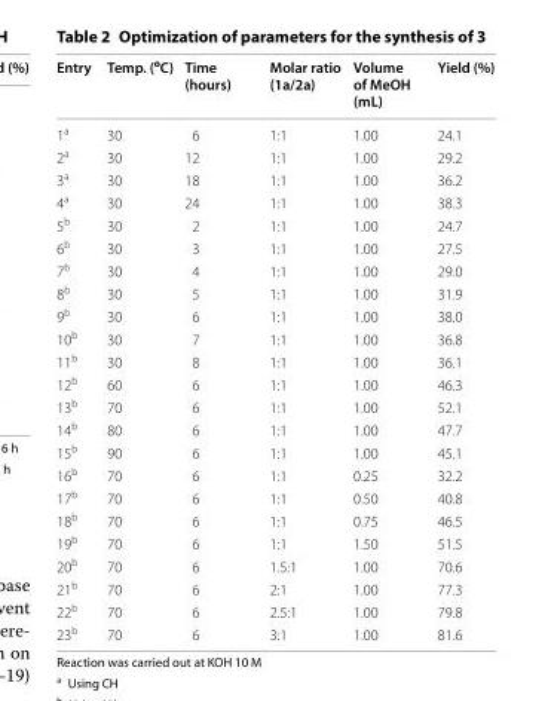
<table><thead><tr><td>Entry</td><td>Temp. (<sup>o</sup>C)</td><td>Time (hours)</td><td>Molar ratio (1a/2a)</td><td>Volume of MeOH (mL)</td><td>Yield (%)</td></tr></thead><tbody><tr><td>1<sup>a</sup></td><td>30</td><td>6</td><td>1:1</td><td>1.00</td><td>24.1</td></tr><tr><td>2<sup>a</sup></td><td>30</td><td>12</td><td>1:1</td><td>1.00</td><td>29.2</td></tr><tr><td>3<sup>a</sup></td><td>30</td><td>18</td><td>1:1</td><td>1.00</td><td>36.2</td></tr><tr><td>4<sup>a</sup></td><td>30</td><td>24</td><td>1:1</td><td>1.00</td><td>38.3</td></tr><tr><td>5<sup>b</sup></td><td>30</td><td>2</td><td>1:1</td><td>1.00</td><td>24.7</td></tr><tr><td>6<sup>b</sup></td><td>30</td><td>3</td><td>1:1</td><td>1.00</td><td>27.5</td></tr><tr><td>7<sup>b</sup></td><td>30</td><td>4</td><td>1:1</td><td>1.00</td><td>29.0</td></tr><tr><td>8<sup>b</sup></td><td>30</td><td>5</td><td>1:1</td><td>1.00</td><td>31.9</td></tr><tr><td>9<sup>b</sup></td><td>30</td><td>6</td><td>1:1</td><td>1.00</td><td>38.0</td></tr><tr><td>10<sup>b</sup></td><td>30</td><td>7</td><td>1:1</td><td>1.00</td><td>36.8</td></tr><tr><td>11<sup>b</sup></td><td>30</td><td>8</td><td>1:1</td><td>1.00</td><td>36.1</td></tr><tr><td>12<sup>b</sup></td><td>60</td><td>6</td><td>1:1</td><td>1.00</td><td>46.3</td></tr><tr><td>13<sup>b</sup></td><td>70</td><td>6</td><td>1:1</td><td>1.00</td><td>52.1</td></tr><tr><td>14<sup>b</sup></td><td>80</td><td>6</td><td>1:1</td><td>1.00</td><td>47.7</td></tr><tr><td>15<sup>b</sup></td><td>90</td><td>6</td><td>1:1</td><td>1.00</td><td>45.1</td></tr><tr><td>16<sup>b</sup></td><td>70</td><td>6</td><td>1:1</td><td>0.25</td><td>32.2</td></tr><tr><td>17<sup>b</sup></td><td>70</td><td>6</td><td>1:1</td><td>0.50</td><td>40.8</td></tr><tr><td>18<sup>b</sup></td><td>70</td><td>6</td><td>1:1</td><td>0.75</td><td>46.5</td></tr><tr><td>19<sup>b</sup></td><td>70</td><td>6</td><td>1:1</td><td>1.50</td><td>51.5</td></tr><tr><td>20<sup>b</sup></td><td>70</td><td>6</td><td>1.5:1</td><td>1.00</td><td>70.6</td></tr><tr><td>21<sup>b</sup></td><td>70</td><td>6</td><td>2:1</td><td>1.00</td><td>77.3</td></tr><tr><td>22<sup>b</sup></td><td>70</td><td>6</td><td>2.5:1</td><td>1.00</td><td>79.8</td></tr><tr><td>23<sup>b</sup></td><td>70</td><td>6</td><td>3:1</td><td>1.00</td><td>81.6</td></tr></tbody></table>